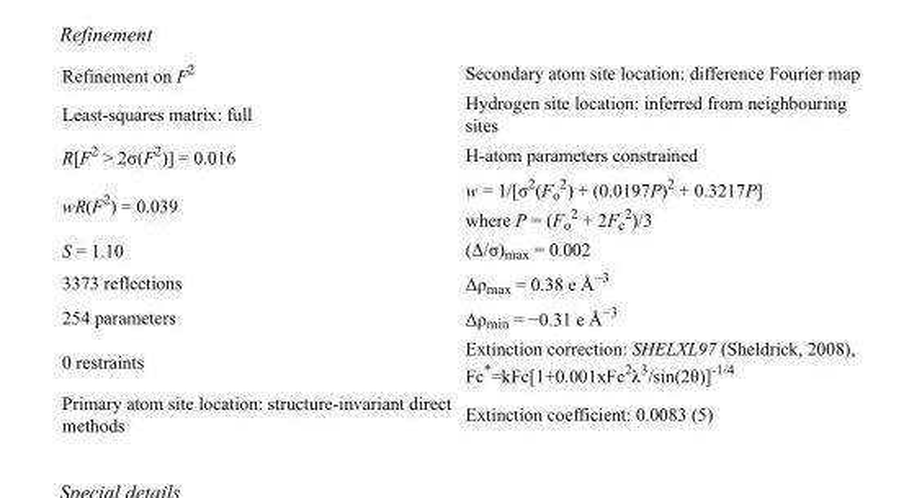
<table><tbody><tr><td>Refinement on F<sup>2</sup></td><td>Secondary atom site location: difference Fourier map</td></tr><tr><td>Least-squares matrix: full</td><td>Hydrogen site location: inferred from neighbouring sites</td></tr><tr><td>R[F<sup>2</sup> &gt; 2σ(F<sup>2</sup>)] = 0.016</td><td>H-atom parameters constrained</td></tr><tr><td>wR(F<sup>2</sup>) = 0.039</td><td>w = 1/[σ<sup>2</sup>(F<sub>o</sub> <sup>2</sup>) + (0.0197P)<sup>2</sup> + 0.3217P] where P = (F<sub>o</sub> <sup>2</sup> + 2F<sub>c</sub> <sup>2</sup>)/3</td></tr><tr><td>S = 1.10</td><td>(Δ/σ)<sub>max</sub> = 0.002</td></tr><tr><td>3373 reflections</td><td>Δρ<sub>max</sub> = 0.38 e Å<sup>−3</sup></td></tr><tr><td>254 parameters</td><td>Δρ<sub>min</sub> = −0.31 e Å<sup>−3</sup></td></tr><tr><td>0 restraints</td><td>Extinction correction: SHELXL97 (Sheldrick, 2008), Fc*=kFc[1+0.001xFc<sup>2</sup>λ<sup>3</sup>/sin(2θ)]<sup>-1/4</sup></td></tr><tr><td>Primary atom site location: structure-invariant direct methods</td><td>Extinction coefficient: 0.0083 (5)</td></tr></tbody></table>